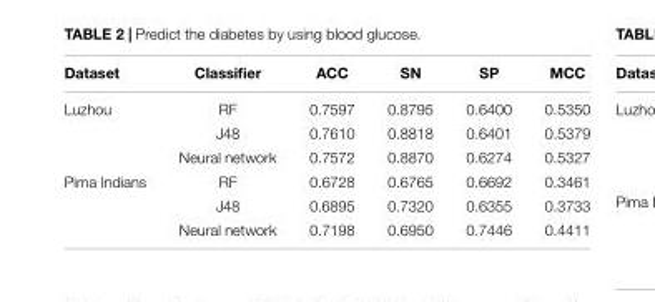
<table><thead><tr><td>Dataset</td><td>Classifier</td><td>ACC</td><td>SN</td><td>SP</td><td>MCC</td></tr></thead><tbody><tr><td rowspan="3">Luzhou</td><td>RF</td><td>0.7597</td><td>0.8795</td><td>0.6400</td><td>0.5350</td></tr><tr><td>J48</td><td>0.7610</td><td>0.8818</td><td>0.6401</td><td>0.5379</td></tr><tr><td>Neural network</td><td>0.7572</td><td>0.8870</td><td>0.6274</td><td>0.5327</td></tr><tr><td rowspan="3">Pima Indians</td><td>RF</td><td>0.6728</td><td>0.6765</td><td>0.6692</td><td>0.3461</td></tr><tr><td>J48</td><td>0.6895</td><td>0.7320</td><td>0.6355</td><td>0.3733</td></tr><tr><td>Neural network</td><td>0.7198</td><td>0.6950</td><td>0.7446</td><td>0.4411</td></tr></tbody></table>